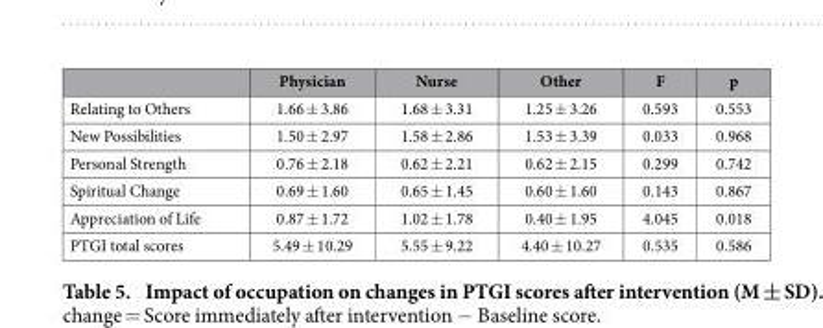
<table><thead><tr><td></td><td>Physician</td><td>Nurse</td><td>Other</td><td>F</td><td>p</td></tr></thead><tbody><tr><td>Relating to Others</td><td>1.66 ± 3.86</td><td>1.68 ± 3.31</td><td>1.25 ± 3.26</td><td>0.593</td><td>0.553</td></tr><tr><td>New Possibilities</td><td>1.50 ± 2.97</td><td>1.58 ± 2.86</td><td>1.53 ± 3.39</td><td>0.033</td><td>0.968</td></tr><tr><td>Personal Strength</td><td>0.76 ± 2.18</td><td>0.62 ± 2.21</td><td>0.62 ± 2.15</td><td>0.299</td><td>0.742</td></tr><tr><td>Spiritual Change</td><td>0.69 ± 1.60</td><td>0.65 ± 1.45</td><td>0.60 ± 1.60</td><td>0.143</td><td>0.867</td></tr><tr><td>Appreciation of Life</td><td>0.87 ± 1.72</td><td>1.02 ± 1.78</td><td>0.40 ± 1.95</td><td>4.045</td><td>0.018</td></tr><tr><td>PTGI total scores</td><td>5.49 ± 10.29</td><td>5.55 ± 9.22</td><td>4.40 ± 10.27</td><td>0.535</td><td>0.586</td></tr></tbody></table>